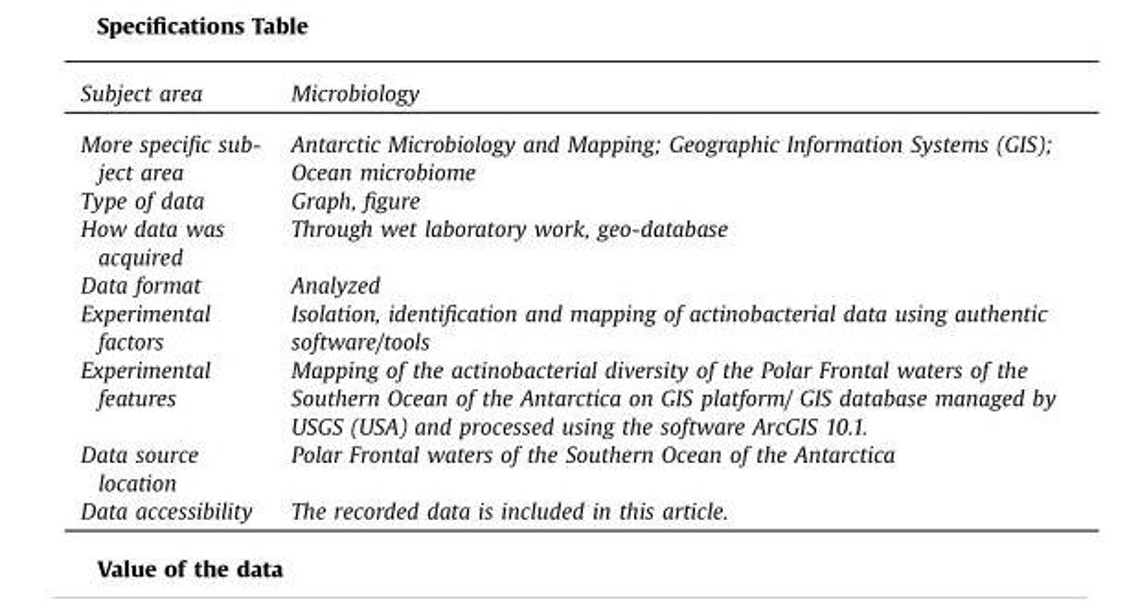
<table><tbody><tr><td>Subject area</td><td>Microbiology</td></tr><tr><td>More specific sub- ject area</td><td>Antarctic Microbiology and Mapping; Geographic Information Systems (GIS); Ocean microbiome</td></tr><tr><td>Type of data</td><td>Graph, figure</td></tr><tr><td>How data was acquired</td><td>Through wet laboratory work, geo-database</td></tr><tr><td>Data format</td><td>Analyzed</td></tr><tr><td>Experimental factors</td><td>Isolation, identification and mapping of actinobacterial data using authentic software/tools</td></tr><tr><td>Experimental features</td><td>Mapping of the actinobacterial diversity of the Polar Frontal waters of the Southern Ocean of the Antarctica on GIS platform/ GIS database managed by USGS (USA) and processed using the software ArcGIS 10.1.</td></tr><tr><td>Data source location</td><td>Polar Frontal waters of the Southern Ocean of the Antarctica</td></tr><tr><td>Data accessibility</td><td>The recorded data is included in this article.</td></tr></tbody></table>